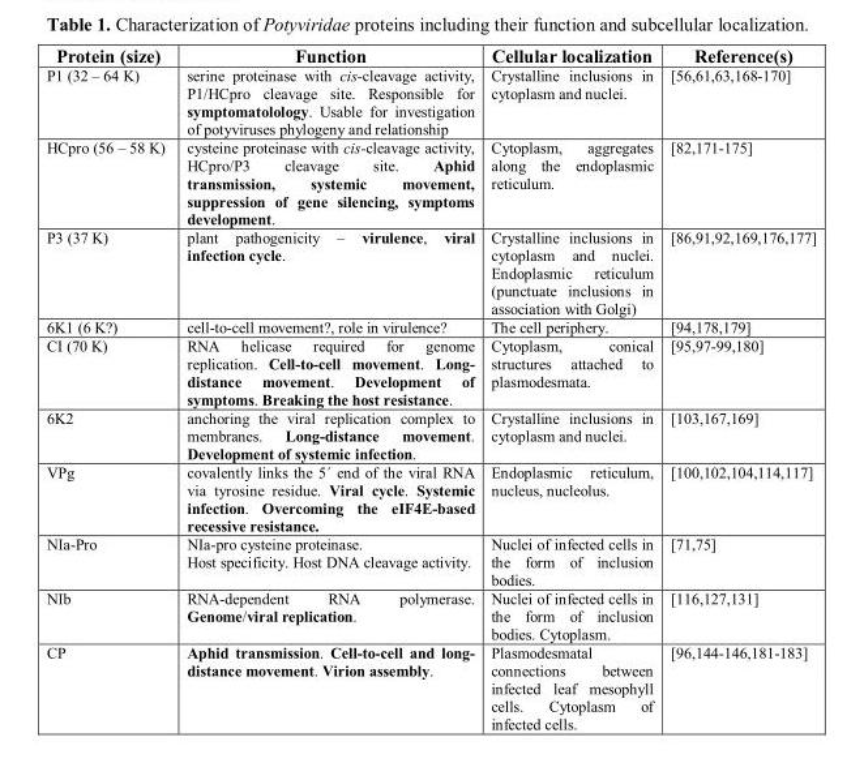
<table><thead><tr><td>Protein (size)</td><td>Function</td><td>Cellular localization</td><td>Reference(s)</td></tr></thead><tbody><tr><td>P1 (32 – 64 K)</td><td>serine proteinase with cis-cleavage activity, P1/HCpro cleavage site. Responsible for symptomatolology. Usable for investigation of potyviruses phylogeny and relationship</td><td>Crystalline inclusions in cytoplasm and nuclei.</td><td>[56,61,63,168-170]</td></tr><tr><td>HCpro (56 – 58 K)</td><td>cysteine proteinase with cis-cleavage activity, HCpro/P3 cleavage site. Aphid transmission, systemic movement, suppression of gene silencing, symptoms development.</td><td>Cytoplasm, aggregates along the endoplasmic reticulum.</td><td>[82,171-175]</td></tr><tr><td>P3 (37 K)</td><td>plant pathogenicity – virulence, viral infection cycle.</td><td>Crystalline inclusions in cytoplasm and nuclei. Endoplasmic reticulum (punctuate inclusions in association with Golgi)</td><td>[86,91,92,169,176,177]</td></tr><tr><td>6K1 (6 K?)</td><td>cell-to-cell movement?, role in virulence?</td><td>The cell periphery.</td><td>[94,178,179]</td></tr><tr><td>CI (70 K)</td><td>RNA helicase required for genome replication. Cell-to-cell movement. Long- distance movement. Development of symptoms. Breaking the host resistance.</td><td>Cytoplasm, conical structures attached to plasmodesmata.</td><td>[95,97-99,180]</td></tr><tr><td>6K2</td><td>anchoring the viral replication complex to membranes. Long-distance movement. Development of systemic infection.</td><td>Crystalline inclusions in cytoplasm and nuclei.</td><td>[103,167,169]</td></tr><tr><td>VPg</td><td>covalently links the 5´ end of the viral RNA via tyrosine residue. Viral cycle. Systemic infection. Overcoming the eIF4E-based recessive resistance.</td><td>Endoplasmic reticulum, nucleus, nucleolus.</td><td>[100,102,104,114,117]</td></tr><tr><td>NIa-Pro</td><td>NIa-pro cysteine proteinase. Host specificity. Host DNA cleavage activity.</td><td>Nuclei of infected cells in the form of inclusion bodies.</td><td>[71,75]</td></tr><tr><td>NIb</td><td>RNA-dependent RNA polymerase. Genome/viral replication.</td><td>Nuclei of infected cells in the form of inclusion bodies. Cytoplasm.</td><td>[116,127,131]</td></tr><tr><td>CP</td><td>Aphid transmission. Cell-to-cell and long- distance movement. Virion assembly.</td><td>Plasmodesmatal connections between infected leaf mesophyll cells. Cytoplasm of infected cells.</td><td>[96,144-146,181-183]</td></tr></tbody></table>